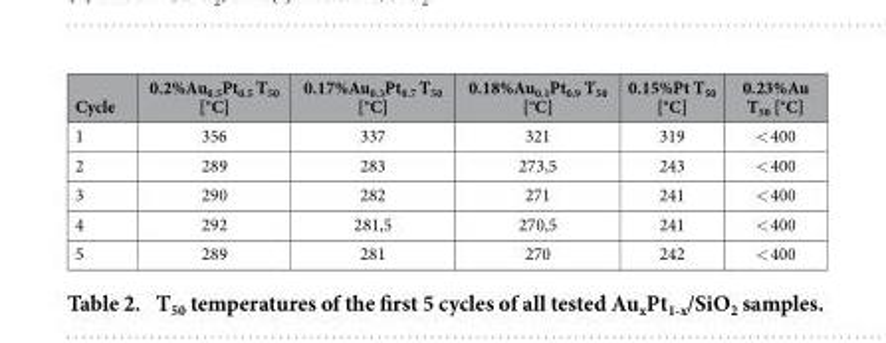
<table><thead><tr><td>Cycle</td><td>0.2%Au<sub>0.5</sub>Pt<sub>0.5</sub> T<sub>50</sub> [°C]</td><td>0.17%Au<sub>0.3</sub>Pt<sub>0.7</sub> T<sub>50</sub> [°C]</td><td>0.18%Au<sub>0.1</sub>Pt<sub>0.9</sub> T<sub>50</sub> [°C]</td><td>0.15%Pt T<sub>50</sub> [°C]</td><td>0.23%Au T<sub>50</sub> [°C]</td></tr></thead><tbody><tr><td>1</td><td>356</td><td>337</td><td>321</td><td>319</td><td>&lt; 400</td></tr><tr><td>2</td><td>289</td><td>283</td><td>273,5</td><td>243</td><td>&lt; 400</td></tr><tr><td>3</td><td>290</td><td>282</td><td>271</td><td>241</td><td>&lt; 400</td></tr><tr><td>4</td><td>292</td><td>281,5</td><td>270,5</td><td>241</td><td>&lt; 400</td></tr><tr><td>5</td><td>289</td><td>281</td><td>270</td><td>242</td><td>&lt; 400</td></tr></tbody></table>